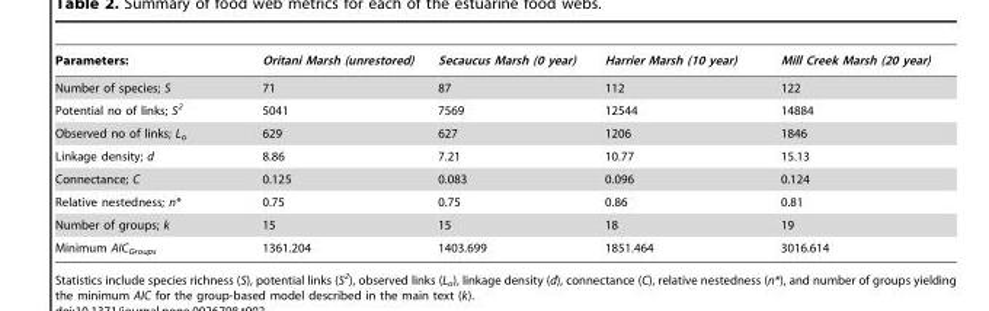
<table><thead><tr><td>Parameters:</td><td>Oritani Marsh (unrestored)</td><td>Secaucus Marsh (0 year)</td><td>Harrier Marsh (10 year)</td><td>Mill Creek Marsh (20 year)</td></tr></thead><tbody><tr><td>Number of species; S</td><td>71</td><td>87</td><td>112</td><td>122</td></tr><tr><td>Potential no of links; S<sup>2</sup></td><td>5041</td><td>7569</td><td>12544</td><td>14884</td></tr><tr><td>Observed no of links; L<sub>o</sub></td><td>629</td><td>627</td><td>1206</td><td>1846</td></tr><tr><td>Linkage density; d</td><td>8.86</td><td>7.21</td><td>10.77</td><td>15.13</td></tr><tr><td>Connectance; C</td><td>0.125</td><td>0.083</td><td>0.096</td><td>0.124</td></tr><tr><td>Relative nestedness; n*</td><td>0.75</td><td>0.75</td><td>0.86</td><td>0.81</td></tr><tr><td>Number of groups; k</td><td>15</td><td>15</td><td>18</td><td>19</td></tr><tr><td>Minimum AIC<sub>Groups</sub></td><td>1361.204</td><td>1403.699</td><td>1851.464</td><td>3016.614</td></tr></tbody></table>